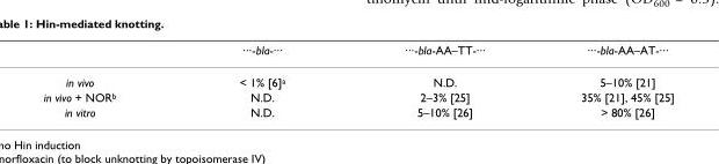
<table><thead><tr><td></td><td>···-bla-···</td><td>···-bla-AA–TT-···</td><td>···-bla-AA–AT-···</td></tr></thead><tbody><tr><td>in vivo</td><td>&lt; 1% [6]<sup>a</sup></td><td>N.D.</td><td>5–10% [21]</td></tr><tr><td>in vivo + NOR<sup>b</sup></td><td>N.D.</td><td>2–3% [25]</td><td>35% [21], 45% [25]</td></tr><tr><td>in vitro</td><td>N.D.</td><td>5–10% [26]</td><td>&gt; 80% [26]</td></tr></tbody></table>